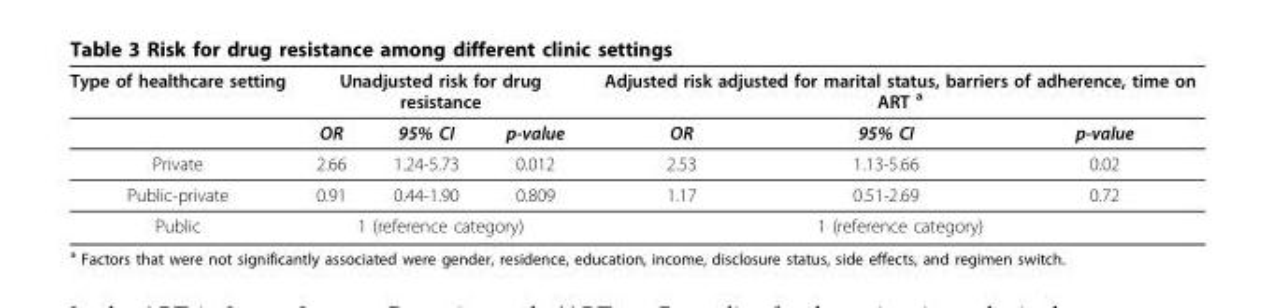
<table><thead><tr><td rowspan="2">Type of healthcare setting</td><td colspan="3">Unadjusted risk for drug resistance</td><td colspan="3">Adjusted risk adjusted for marital status, barriers of adherence, time on ART <sup>a</sup></td></tr><tr><td>OR</td><td>95% CI</td><td>p-value</td><td>OR</td><td>95% CI</td><td>p-value</td></tr></thead><tbody><tr><td>Private</td><td>2.66</td><td>1.24-5.73</td><td>0.012</td><td>2.53</td><td>1.13-5.66</td><td>0.02</td></tr><tr><td>Public-private</td><td>0.91</td><td>0.44-1.90</td><td>0.809</td><td>1.17</td><td>0.51-2.69</td><td>0.72</td></tr><tr><td>Public</td><td colspan="3">1 (reference category)</td><td colspan="3">1 (reference category)</td></tr></tbody></table>